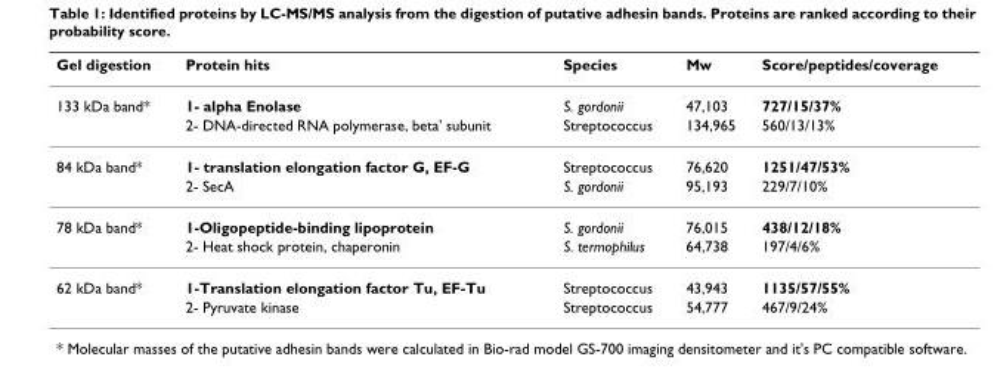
<table><thead><tr><td>Gel digestion</td><td>Protein hits</td><td>Species</td><td>Mw</td><td>Score/peptides/coverage</td></tr></thead><tbody><tr><td rowspan="2">133 kDa band*</td><td>1- alpha Enolase</td><td>S. gordonii</td><td>47,103</td><td>727/15/37%</td></tr><tr><td>2- DNA-directed RNA polymerase, beta&#x27; subunit</td><td>Streptococcus</td><td>134,965</td><td>560/13/13%</td></tr><tr><td rowspan="2">84 kDa band*</td><td>1- translation elongation factor G, EF-G</td><td>Streptococcus</td><td>76,620</td><td>1251/47/53%</td></tr><tr><td>2- SecA</td><td>S. gordonii</td><td>95,193</td><td>229/7/10%</td></tr><tr><td rowspan="2">78 kDa band*</td><td>1-Oligopeptide-binding lipoprotein</td><td>S. gordonii</td><td>76,015</td><td>438/12/18%</td></tr><tr><td>2- Heat shock protein, chaperonin</td><td>S. termophilus</td><td>64,738</td><td>197/4/6%</td></tr><tr><td rowspan="2">62 kDa band*</td><td>1-Translation elongation factor Tu, EF-Tu</td><td>Streptococcus</td><td>43,943</td><td>1135/57/55%</td></tr><tr><td>2- Pyruvate kinase</td><td>Streptococcus</td><td>54,777</td><td>467/9/24%</td></tr></tbody></table>